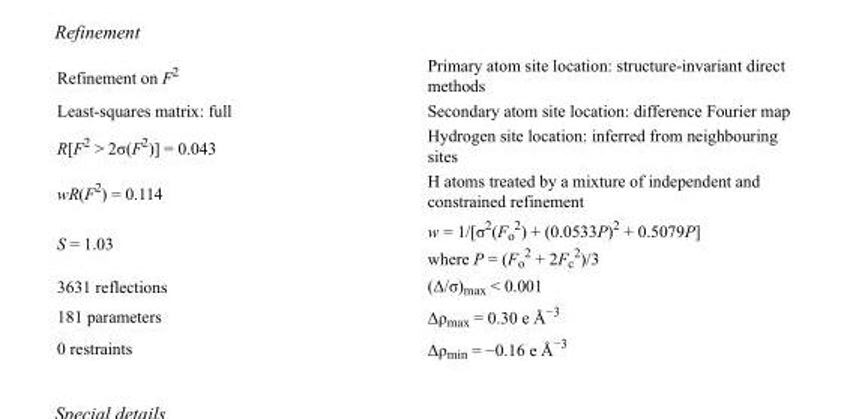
<table><tbody><tr><td>Refinement on F<sup>2</sup></td><td>Primary atom site location: structure-invariant direct methods</td></tr><tr><td>Least-squares matrix: full</td><td>Secondary atom site location: difference Fourier map</td></tr><tr><td>R[F<sup>2</sup> &gt; 2σ(F<sup>2</sup>)] = 0.043</td><td>Hydrogen site location: inferred from neighbouring sites</td></tr><tr><td>wR(F<sup>2</sup>) = 0.114</td><td>H atoms treated by a mixture of independent and constrained refinement</td></tr><tr><td>S = 1.03</td><td>w = 1/[σ<sup>2</sup>(F<sub>o</sub> <sup>2</sup>) + (0.0533P)<sup>2</sup> + 0.5079P] where P = (F<sub>o</sub> <sup>2</sup> + 2F<sub>c</sub> <sup>2</sup>)/3</td></tr><tr><td>3631 reflections</td><td>(Δ/σ)<sub>max</sub> &lt; 0.001</td></tr><tr><td>181 parameters</td><td>Δρ<sub>max</sub> = 0.30 e Å<sup>−3</sup></td></tr><tr><td>0 restraints</td><td>Δρ<sub>min</sub> = −0.16 e Å<sup>−3</sup></td></tr></tbody></table>